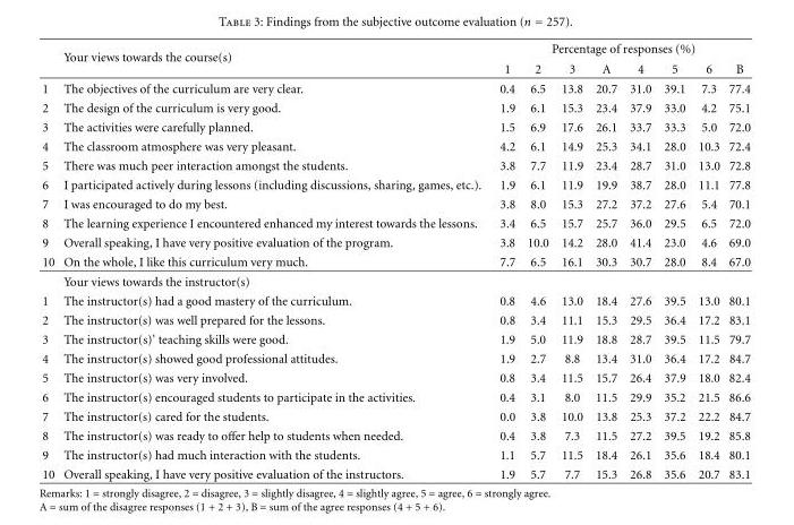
<table><thead><tr><td rowspan="2"></td><td rowspan="2">Your views towards the course(s)</td><td colspan="8">Percentage of responses (%)</td></tr><tr><td>1</td><td>2</td><td>3</td><td>A</td><td>4</td><td>5</td><td>6</td><td>B</td></tr></thead><tbody><tr><td>1</td><td>The objectives of the curriculum are very clear.</td><td>0.4</td><td>6.5</td><td>13.8</td><td>20.7</td><td>31.0</td><td>39.1</td><td>7.3</td><td>77.4</td></tr><tr><td>2</td><td>The design of the curriculum is very good.</td><td>1.9</td><td>6.1</td><td>15.3</td><td>23.4</td><td>37.9</td><td>33.0</td><td>4.2</td><td>75.1</td></tr><tr><td>3</td><td>The activities were carefully planned.</td><td>1.5</td><td>6.9</td><td>17.6</td><td>26.1</td><td>33.7</td><td>33.3</td><td>5.0</td><td>72.0</td></tr><tr><td>4</td><td>The classroom atmosphere was very pleasant.</td><td>4.2</td><td>6.1</td><td>14.9</td><td>25.3</td><td>34.1</td><td>28.0</td><td>10.3</td><td>72.4</td></tr><tr><td>5</td><td>There was much peer interaction amongst the students.</td><td>3.8</td><td>7.7</td><td>11.9</td><td>23.4</td><td>28.7</td><td>31.0</td><td>13.0</td><td>72.8</td></tr><tr><td>6</td><td>I participated actively during lessons (including discussions, sharing, games, etc.).</td><td>1.9</td><td>6.1</td><td>11.9</td><td>19.9</td><td>38.7</td><td>28.0</td><td>11.1</td><td>77.8</td></tr><tr><td>7</td><td>I was encouraged to do my best.</td><td>3.8</td><td>8.0</td><td>15.3</td><td>27.2</td><td>37.2</td><td>27.6</td><td>5.4</td><td>70.1</td></tr><tr><td>8</td><td>The learning experience I encountered enhanced my interest towards the lessons.</td><td>3.4</td><td>6.5</td><td>15.7</td><td>25.7</td><td>36.0</td><td>29.5</td><td>6.5</td><td>72.0</td></tr><tr><td>9</td><td>Overall speaking, I have very positive evaluation of the program.</td><td>3.8</td><td>10.0</td><td>14.2</td><td>28.0</td><td>41.4</td><td>23.0</td><td>4.6</td><td>69.0</td></tr><tr><td rowspan="2">10</td><td>On the whole, I like this curriculum very much.</td><td>7.7</td><td>6.5</td><td>16.1</td><td>30.3</td><td>30.7</td><td>28.0</td><td>8.4</td><td>67.0</td></tr><tr><td>Your views towards the instructor(s)</td><td></td><td></td><td></td><td></td><td></td><td></td><td></td><td></td></tr><tr><td>1</td><td>The instructor(s) had a good mastery of the curriculum.</td><td>0.8</td><td>4.6</td><td>13.0</td><td>18.4</td><td>27.6</td><td>39.5</td><td>13.0</td><td>80.1</td></tr><tr><td>2</td><td>The instructor(s) was well prepared for the lessons.</td><td>0.8</td><td>3.4</td><td>11.1</td><td>15.3</td><td>29.5</td><td>36.4</td><td>17.2</td><td>83.1</td></tr><tr><td>3</td><td>The instructor(s)’ teaching skills were good.</td><td>1.9</td><td>5.0</td><td>11.9</td><td>18.8</td><td>28.7</td><td>39.5</td><td>11.5</td><td>79.7</td></tr><tr><td>4</td><td>The instructor(s) showed good professional attitudes.</td><td>1.9</td><td>2.7</td><td>8.8</td><td>13.4</td><td>31.0</td><td>36.4</td><td>17.2</td><td>84.7</td></tr><tr><td>5</td><td>The instructor(s) was very involved.</td><td>0.8</td><td>3.4</td><td>11.5</td><td>15.7</td><td>26.4</td><td>37.9</td><td>18.0</td><td>82.4</td></tr><tr><td>6</td><td>The instructor(s) encouraged students to participate in the activities.</td><td>0.4</td><td>3.1</td><td>8.0</td><td>11.5</td><td>29.9</td><td>35.2</td><td>21.5</td><td>86.6</td></tr><tr><td>7</td><td>The instructor(s) cared for the students.</td><td>0.0</td><td>3.8</td><td>10.0</td><td>13.8</td><td>25.3</td><td>37.2</td><td>22.2</td><td>84.7</td></tr><tr><td>8</td><td>The instructor(s) was ready to offer help to students when needed.</td><td>0.4</td><td>3.8</td><td>7.3</td><td>11.5</td><td>27.2</td><td>39.5</td><td>19.2</td><td>85.8</td></tr><tr><td>9</td><td>The instructor(s) had much interaction with the students.</td><td>1.1</td><td>5.7</td><td>11.5</td><td>18.4</td><td>26.1</td><td>35.6</td><td>18.4</td><td>80.1</td></tr><tr><td>10</td><td>Overall speaking, I have very positive evaluation of the instructors.</td><td>1.9</td><td>5.7</td><td>7.7</td><td>15.3</td><td>26.8</td><td>35.6</td><td>20.7</td><td>83.1</td></tr></tbody></table>